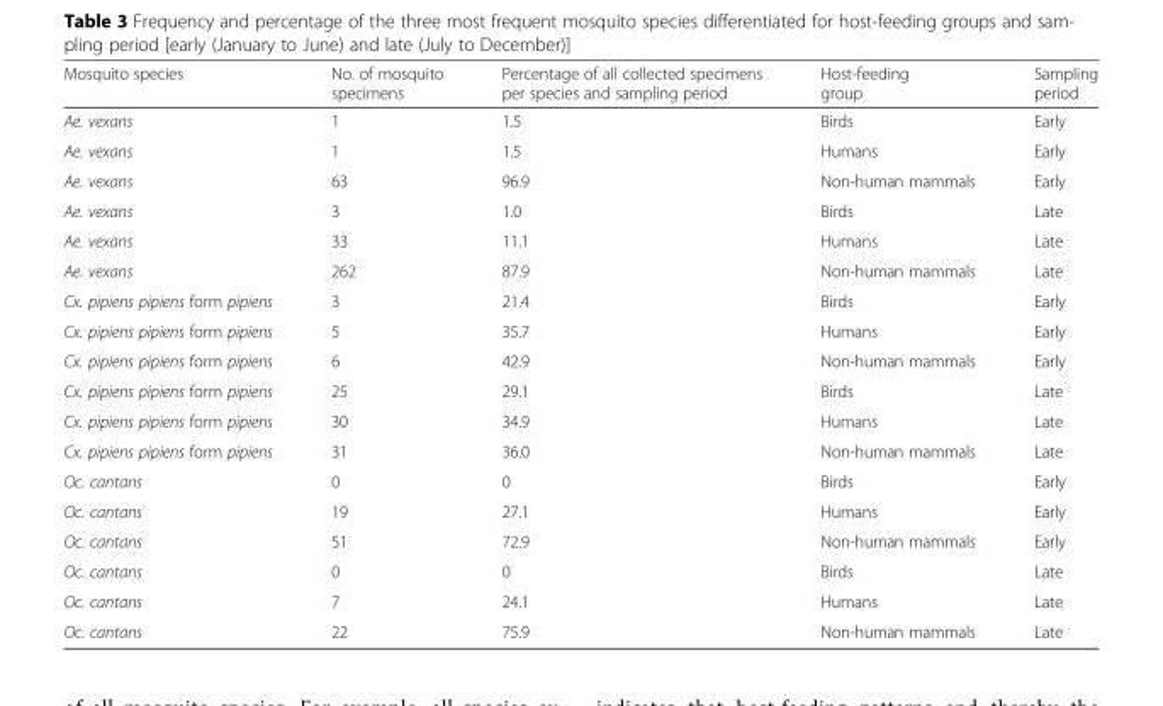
<table><thead><tr><td>Mosquito species</td><td>No. of mosquito specimens</td><td>Percentage of all collected specimens per species and sampling period</td><td>Host-feeding group</td><td>Sampling period</td></tr></thead><tbody><tr><td>Ae. vexans</td><td>1</td><td>1.5</td><td>Birds</td><td>Early</td></tr><tr><td>Ae. vexans</td><td>1</td><td>1.5</td><td>Humans</td><td>Early</td></tr><tr><td>Ae. vexans</td><td>63</td><td>96.9</td><td>Non-human mammals</td><td>Early</td></tr><tr><td>Ae. vexans</td><td>3</td><td>1.0</td><td>Birds</td><td>Late</td></tr><tr><td>Ae. vexans</td><td>33</td><td>11.1</td><td>Humans</td><td>Late</td></tr><tr><td>Ae. vexans</td><td>262</td><td>87.9</td><td>Non-human mammals</td><td>Late</td></tr><tr><td>Cx. pipiens pipiens form pipiens</td><td>3</td><td>21.4</td><td>Birds</td><td>Early</td></tr><tr><td>Cx. pipiens pipiens form pipiens</td><td>5</td><td>35.7</td><td>Humans</td><td>Early</td></tr><tr><td>Cx. pipiens pipiens form pipiens</td><td>6</td><td>42.9</td><td>Non-human mammals</td><td>Early</td></tr><tr><td>Cx. pipiens pipiens form pipiens</td><td>25</td><td>29.1</td><td>Birds</td><td>Late</td></tr><tr><td>Cx. pipiens pipiens form pipiens</td><td>30</td><td>34.9</td><td>Humans</td><td>Late</td></tr><tr><td>Cx. pipiens pipiens form pipiens</td><td>31</td><td>36.0</td><td>Non-human mammals</td><td>Late</td></tr><tr><td>Oc. cantans</td><td>0</td><td>0</td><td>Birds</td><td>Early</td></tr><tr><td>Oc. cantans</td><td>19</td><td>27.1</td><td>Humans</td><td>Early</td></tr><tr><td>Oc. cantans</td><td>51</td><td>72.9</td><td>Non-human mammals</td><td>Early</td></tr><tr><td>Oc. cantans</td><td>0</td><td>0</td><td>Birds</td><td>Late</td></tr><tr><td>Oc. cantans</td><td>7</td><td>24.1</td><td>Humans</td><td>Late</td></tr><tr><td>Oc. cantans</td><td>22</td><td>75.9</td><td>Non-human mammals</td><td>Late</td></tr></tbody></table>